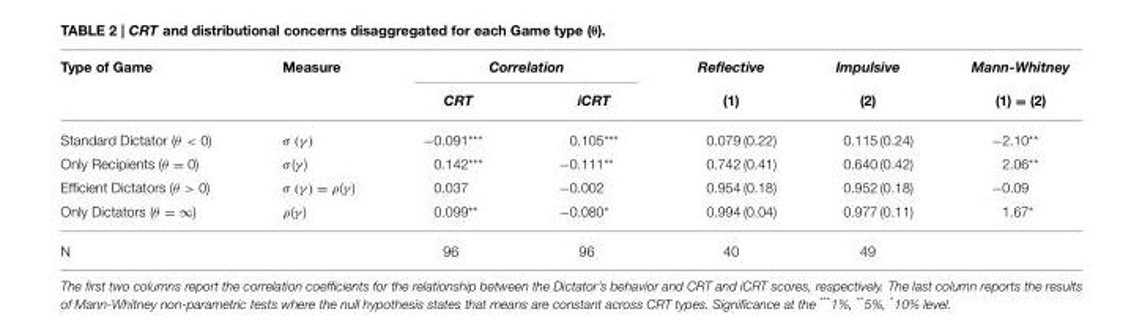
<table><thead><tr><td rowspan="2">Type of Game</td><td rowspan="2">Measure</td><td colspan="2">Correlation</td><td rowspan="2">Reflective (1)</td><td rowspan="2">Impulsive (2)</td><td rowspan="2">Mann-Whitney (1) = (2)</td></tr><tr><td>CRT</td><td>iCRT</td></tr></thead><tbody><tr><td>Standard Dictator (θ &lt; 0)</td><td>σ (γ )</td><td>−0.091***</td><td>0.105***</td><td>0.079 (0.22)</td><td>0.115 (0.24)</td><td>−2.10**</td></tr><tr><td>Only Recipients (θ = 0)</td><td>σ(γ )</td><td>0.142***</td><td>−0.111**</td><td>0.742 (0.41)</td><td>0.640 (0.42)</td><td>2.06**</td></tr><tr><td>Efficient Dictators (θ &gt; 0)</td><td>σ (γ ) = ρ(γ )</td><td>0.037</td><td>−0.002</td><td>0.954 (0.18)</td><td>0.952 (0.18)</td><td>−0.09</td></tr><tr><td>Only Dictators (θ = ∞)</td><td>ρ(γ )</td><td>0.099**</td><td>−0.080*</td><td>0.994 (0.04)</td><td>0.977 (0.11)</td><td>1.67*</td></tr><tr><td>N</td><td></td><td>96</td><td>96</td><td>40</td><td>49</td><td></td></tr></tbody></table>